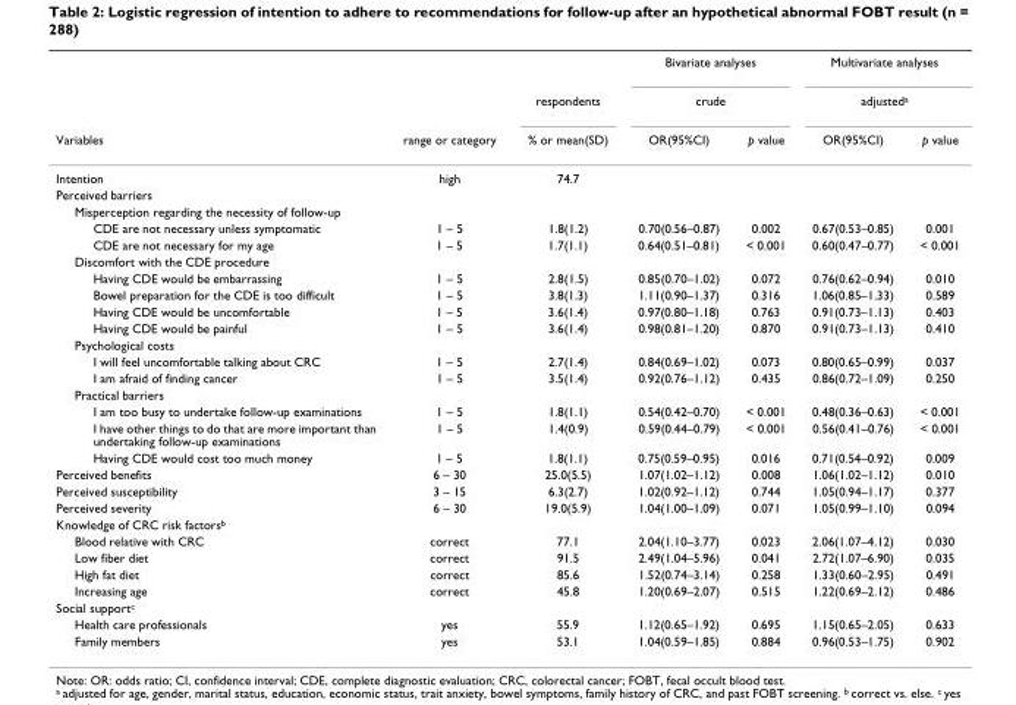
<table><thead><tr><td rowspan="3">Variables</td><td rowspan="3">range or category</td><td rowspan="3">respondents % or mean(SD)</td><td rowspan="2" colspan="2">Bivariate analyses crude</td><td rowspan="2" colspan="2">Multivariate analyses adjusteda</td></tr><tr></tr><tr><td>OR(95%CI)</td><td>p value</td><td>OR(95%CI)</td><td>p value</td></tr></thead><tbody><tr><td>Intention</td><td>high</td><td>74.7</td><td></td><td></td><td></td><td></td></tr><tr><td colspan="7">Perceived barriers</td></tr><tr><td colspan="7">Misperception regarding the necessity of follow-up</td></tr><tr><td>CDE are not necessary unless symptomatic</td><td>1 – 5</td><td>1.8(1.2)</td><td>0.70(0.56–0.87)</td><td>0.002</td><td>0.67(0.53–0.85)</td><td>0.001</td></tr><tr><td>CDE are not necessary for my age</td><td>1 – 5</td><td>1.7(1.1)</td><td>0.64(0.51–0.81)</td><td>&lt; 0.001</td><td>0.60(0.47–0.77)</td><td>&lt; 0.001</td></tr><tr><td colspan="7">Discomfort with the CDE procedure</td></tr><tr><td>Having CDE would be embarrassing</td><td>1 – 5</td><td>2.8(1.5)</td><td>0.85(0.70–1.02)</td><td>0.072</td><td>0.76(0.62–0.94)</td><td>0.010</td></tr><tr><td>Bowel preparation for the CDE is too difficult</td><td>1 – 5</td><td>3.8(1.3)</td><td>1.11(0.90–1.37)</td><td>0.316</td><td>1.06(0.85–1.33)</td><td>0.589</td></tr><tr><td>Having CDE would be uncomfortable</td><td>1 – 5</td><td>3.6(1.4)</td><td>0.97(0.80–1.18)</td><td>0.763</td><td>0.91(0.73–1.13)</td><td>0.403</td></tr><tr><td>Having CDE would be painful</td><td>1 – 5</td><td>3.6(1.4)</td><td>0.98(0.81–1.20)</td><td>0.870</td><td>0.91(0.73–1.13)</td><td>0.410</td></tr><tr><td colspan="7">Psychological costs</td></tr><tr><td>I will feel uncomfortable talking about CRC</td><td>1 – 5</td><td>2.7(1.4)</td><td>0.84(0.69–1.02)</td><td>0.073</td><td>0.80(0.65–0.99)</td><td>0.037</td></tr><tr><td>I am afraid of finding cancer</td><td>1 – 5</td><td>3.5(1.4)</td><td>0.92(0.76–1.12)</td><td>0.435</td><td>0.86(0.72–1.09)</td><td>0.250</td></tr><tr><td colspan="7">Practical barriers</td></tr><tr><td>I am too busy to undertake follow-up examinations</td><td>1 – 5</td><td>1.8(1.1)</td><td>0.54(0.42–0.70)</td><td>&lt; 0.001</td><td>0.48(0.36–0.63)</td><td>&lt; 0.001</td></tr><tr><td>I have other things to do that are more important than undertaking follow-up examinations</td><td>1 – 5</td><td>1.4(0.9)</td><td>0.59(0.44–0.79)</td><td>&lt; 0.001</td><td>0.56(0.41–0.76)</td><td>&lt; 0.001</td></tr><tr><td>Having CDE would cost too much money</td><td>1 – 5</td><td>1.8(1.1)</td><td>0.75(0.59–0.95)</td><td>0.016</td><td>0.71(0.54–0.92)</td><td>0.009</td></tr><tr><td>Perceived benefits</td><td>6 – 30</td><td>25.0(5.5)</td><td>1.07(1.02–1.12)</td><td>0.008</td><td>1.06(1.02–1.12)</td><td>0.010</td></tr><tr><td>Perceived susceptibility</td><td>3 – 15</td><td>6.3(2.7)</td><td>1.02(0.92–1.12)</td><td>0.744</td><td>1.05(0.94–1.17)</td><td>0.377</td></tr><tr><td>Perceived severity</td><td>6 – 30</td><td>19.0(5.9)</td><td>1.04(1.00–1.09)</td><td>0.071</td><td>1.05(0.99–1.10)</td><td>0.094</td></tr><tr><td colspan="7">Knowledge of CRC risk factorsb</td></tr><tr><td>Blood relative with CRC</td><td>correct</td><td>77.1</td><td>2.04(1.10–3.77)</td><td>0.023</td><td>2.06(1.07–4.12)</td><td>0.030</td></tr><tr><td>Low fiber diet</td><td>correct</td><td>91.5</td><td>2.49(1.04–5.96)</td><td>0.041</td><td>2.72(1.07–6.90)</td><td>0.035</td></tr><tr><td>High fat diet</td><td>correct</td><td>85.6</td><td>1.52(0.74–3.14)</td><td>0.258</td><td>1.33(0.60–2.95)</td><td>0.491</td></tr><tr><td>Increasing age</td><td>correct</td><td>45.8</td><td>1.20(0.69–2.07)</td><td>0.515</td><td>1.22(0.69–2.12)</td><td>0.486</td></tr><tr><td colspan="7">Social supportc</td></tr><tr><td>Health care professionals</td><td>yes</td><td>55.9</td><td>1.12(0.65–1.92)</td><td>0.695</td><td>1.15(0.65–2.05)</td><td>0.633</td></tr><tr><td>Family members</td><td>yes</td><td>53.1</td><td>1.04(0.59–1.85)</td><td>0.884</td><td>0.96(0.53–1.75)</td><td>0.902</td></tr></tbody></table>